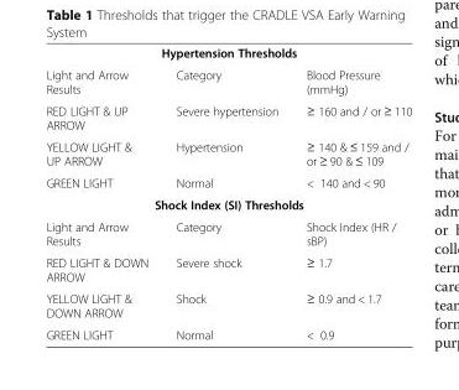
<table><tbody><tr><td colspan="3">Hypertension Thresholds</td></tr><tr><td>Light and Arrow Results</td><td>Category</td><td>Blood Pressure (mmHg)</td></tr><tr><td>RED LIGHT &amp; UP ARROW</td><td>Severe hypertension</td><td>≥ 160 and / or ≥ 110</td></tr><tr><td>YELLOW LIGHT &amp; UP ARROW</td><td>Hypertension</td><td>≥ 140 &amp; ≤ 159 and / or ≥ 90 &amp; ≤ 109</td></tr><tr><td>GREEN LIGHT</td><td>Normal</td><td>&lt; 140 and &lt; 90</td></tr><tr><td colspan="3">Shock Index (SI) Thresholds</td></tr><tr><td>Light and Arrow Results</td><td>Category</td><td>Shock Index (HR / sBP)</td></tr><tr><td>RED LIGHT &amp; DOWN ARROW</td><td>Severe shock</td><td>≥ 1.7</td></tr><tr><td>YELLOW LIGHT &amp; DOWN ARROW</td><td>Shock</td><td>≥ 0.9 and &lt; 1.7</td></tr><tr><td>GREEN LIGHT</td><td>Normal</td><td>&lt; 0.9</td></tr></tbody></table>